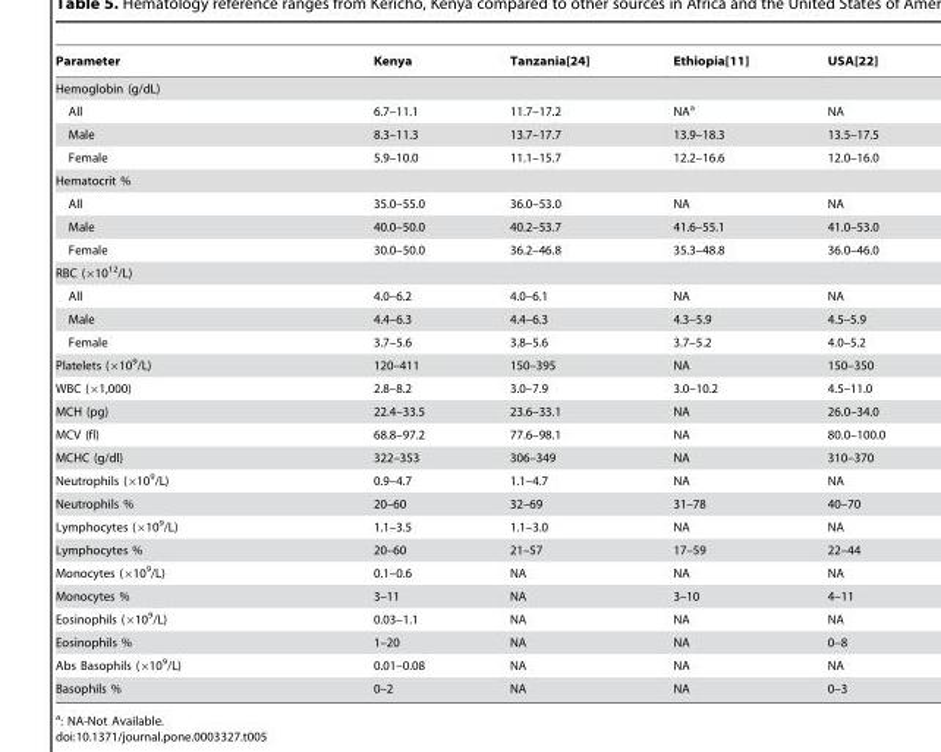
<table><thead><tr><td>Parameter</td><td>Kenya</td><td>Tanzania[24]</td><td>Ethiopia[11]</td><td>USA[22]</td></tr></thead><tbody><tr><td colspan="5">Hemoglobin (g/dL)</td></tr><tr><td>All</td><td>6.7–11.1</td><td>11.7–17.2</td><td>NA<sup>a</sup></td><td>NA</td></tr><tr><td>Male</td><td>8.3–11.3</td><td>13.7–17.7</td><td>13.9–18.3</td><td>13.5–17.5</td></tr><tr><td>Female</td><td>5.9–10.0</td><td>11.1–15.7</td><td>12.2–16.6</td><td>12.0–16.0</td></tr><tr><td colspan="5">Hematocrit %</td></tr><tr><td>All</td><td>35.0–55.0</td><td>36.0–53.0</td><td>NA</td><td>NA</td></tr><tr><td>Male</td><td>40.0–50.0</td><td>40.2–53.7</td><td>41.6–55.1</td><td>41.0–53.0</td></tr><tr><td>Female</td><td>30.0–50.0</td><td>36.2–46.8</td><td>35.3–48.8</td><td>36.0–46.0</td></tr><tr><td colspan="5">RBC (×10<sup>12</sup>/L)</td></tr><tr><td>All</td><td>4.0–6.2</td><td>4.0–6.1</td><td>NA</td><td>NA</td></tr><tr><td>Male</td><td>4.4–6.3</td><td>4.4–6.3</td><td>4.3–5.9</td><td>4.5–5.9</td></tr><tr><td>Female</td><td>3.7–5.6</td><td>3.8–5.6</td><td>3.7–5.2</td><td>4.0–5.2</td></tr><tr><td>Platelets (×10<sup>9</sup>/L)</td><td>120–411</td><td>150–395</td><td>NA</td><td>150–350</td></tr><tr><td>WBC (×1,000)</td><td>2.8–8.2</td><td>3.0–7.9</td><td>3.0–10.2</td><td>4.5–11.0</td></tr><tr><td>MCH (pg)</td><td>22.4–33.5</td><td>23.6–33.1</td><td>NA</td><td>26.0–34.0</td></tr><tr><td>MCV (fl)</td><td>68.8–97.2</td><td>77.6–98.1</td><td>NA</td><td>80.0–100.0</td></tr><tr><td>MCHC (g/dl)</td><td>322–353</td><td>306–349</td><td>NA</td><td>310–370</td></tr><tr><td>Neutrophils (×10<sup>9</sup>/L)</td><td>0.9–4.7</td><td>1.1–4.7</td><td>NA</td><td>NA</td></tr><tr><td>Neutrophils %</td><td>20–60</td><td>32–69</td><td>31–78</td><td>40–70</td></tr><tr><td>Lymphocytes (×10<sup>9</sup>/L)</td><td>1.1–3.5</td><td>1.1–3.0</td><td>NA</td><td>NA</td></tr><tr><td>Lymphocytes %</td><td>20–60</td><td>21–57</td><td>17–59</td><td>22–44</td></tr><tr><td>Monocytes (×10<sup>9</sup>/L)</td><td>0.1–0.6</td><td>NA</td><td>NA</td><td>NA</td></tr><tr><td>Monocytes %</td><td>3–11</td><td>NA</td><td>3–10</td><td>4–11</td></tr><tr><td>Eosinophils (×10<sup>9</sup>/L)</td><td>0.03–1.1</td><td>NA</td><td>NA</td><td>NA</td></tr><tr><td>Eosinophils %</td><td>1–20</td><td>NA</td><td>NA</td><td>0–8</td></tr><tr><td>Abs Basophils (×10<sup>9</sup>/L)</td><td>0.01–0.08</td><td>NA</td><td>NA</td><td>NA</td></tr><tr><td>Basophils %</td><td>0–2</td><td>NA</td><td>NA</td><td>0–3</td></tr></tbody></table>